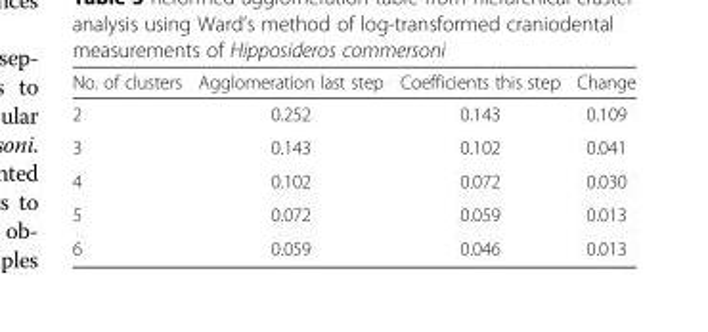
<table><thead><tr><td>No. of clusters</td><td>Agglomeration last step</td><td>Coefficients this step</td><td>Change</td></tr></thead><tbody><tr><td>2</td><td>0.252</td><td>0.143</td><td>0.109</td></tr><tr><td>3</td><td>0.143</td><td>0.102</td><td>0.041</td></tr><tr><td>4</td><td>0.102</td><td>0.072</td><td>0.030</td></tr><tr><td>5</td><td>0.072</td><td>0.059</td><td>0.013</td></tr><tr><td>6</td><td>0.059</td><td>0.046</td><td>0.013</td></tr></tbody></table>